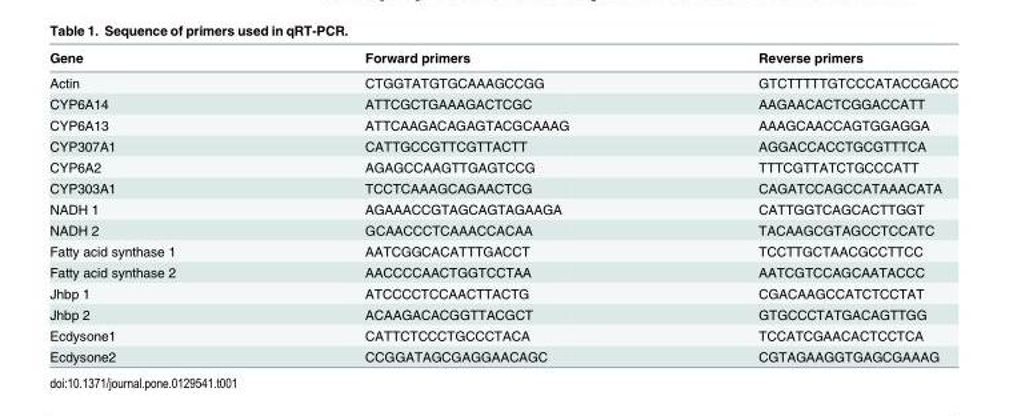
<table><thead><tr><td>Gene</td><td>Forward primers</td><td>Reverse primers</td></tr></thead><tbody><tr><td>Actin</td><td>CTGGTATGTGCAAAGCCGG</td><td>GTCTTTTTGTCCCATACCGACC</td></tr><tr><td>CYP6A14</td><td>ATTCGCTGAAAGACTCGC</td><td>AAGAACACTCGGACCATT</td></tr><tr><td>CYP6A13</td><td>ATTCAAGACAGAGTACGCAAAG</td><td>AAAGCAACCAGTGGAGGA</td></tr><tr><td>CYP307A1</td><td>CATTGCCGTTCGTTACTT</td><td>AGGACCACCTGCGTTTCA</td></tr><tr><td>CYP6A2</td><td>AGAGCCAAGTTGAGTCCG</td><td>TTTCGTTATCTGCCCATT</td></tr><tr><td>CYP303A1</td><td>TCCTCAAAGCAGAACTCG</td><td>CAGATCCAGCCATAAACATA</td></tr><tr><td>NADH 1</td><td>AGAAACCGTAGCAGTAGAAGA</td><td>CATTGGTCAGCACTTGGT</td></tr><tr><td>NADH 2</td><td>GCAACCCTCAAACCACAA</td><td>TACAAGCGTAGCCTCCATC</td></tr><tr><td>Fatty acid synthase 1</td><td>AATCGGCACATTTGACCT</td><td>TCCTTGCTAACGCCTTCC</td></tr><tr><td>Fatty acid synthase 2</td><td>AACCCCAACTGGTCCTAA</td><td>AATCGTCCAGCAATACCC</td></tr><tr><td>Jhbp 1</td><td>ATCCCCTCCAACTTACTG</td><td>CGACAAGCCATCTCCTAT</td></tr><tr><td>Jhbp 2</td><td>ACAAGACACGGTTACGCT</td><td>GTGCCCTATGACAGTTGG</td></tr><tr><td>Ecdysone1</td><td>CATTCTCCCTGCCCTACA</td><td>TCCATCGAACACTCCTCA</td></tr><tr><td>Ecdysone2</td><td>CCGGATAGCGAGGAACAGC</td><td>CGTAGAAGGTGAGCGAAAG</td></tr></tbody></table>